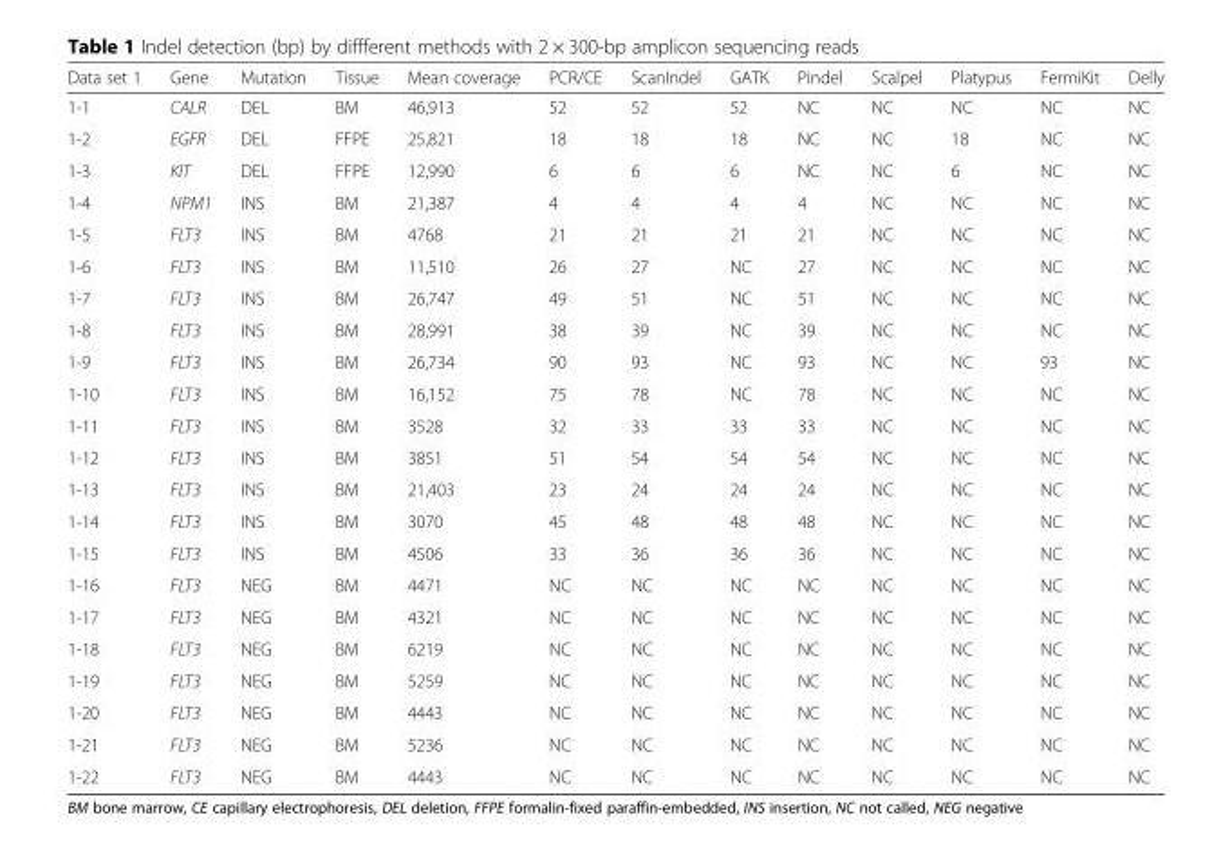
<table><thead><tr><td>Data set 1</td><td>Gene</td><td>Mutation</td><td>Tissue</td><td>Mean coverage</td><td>PCR/CE</td><td>ScanIndel</td><td>GATK</td><td>Pindel</td><td>Scalpel</td><td>Platypus</td><td>FermiKit</td><td>Delly</td></tr></thead><tbody><tr><td>1-1</td><td>CALR</td><td>DEL</td><td>BM</td><td>46,913</td><td>52</td><td>52</td><td>52</td><td>NC</td><td>NC</td><td>NC</td><td>NC</td><td>NC</td></tr><tr><td>1-2</td><td>EGFR</td><td>DEL</td><td>FFPE</td><td>25,821</td><td>18</td><td>18</td><td>18</td><td>NC</td><td>NC</td><td>18</td><td>NC</td><td>NC</td></tr><tr><td>1-3</td><td>KIT</td><td>DEL</td><td>FFPE</td><td>12,990</td><td>6</td><td>6</td><td>6</td><td>NC</td><td>NC</td><td>6</td><td>NC</td><td>NC</td></tr><tr><td>1-4</td><td>NPM1</td><td>INS</td><td>BM</td><td>21,387</td><td>4</td><td>4</td><td>4</td><td>4</td><td>NC</td><td>NC</td><td>NC</td><td>NC</td></tr><tr><td>1-5</td><td>FLT3</td><td>INS</td><td>BM</td><td>4768</td><td>21</td><td>21</td><td>21</td><td>21</td><td>NC</td><td>NC</td><td>NC</td><td>NC</td></tr><tr><td>1-6</td><td>FLT3</td><td>INS</td><td>BM</td><td>11,510</td><td>26</td><td>27</td><td>NC</td><td>27</td><td>NC</td><td>NC</td><td>NC</td><td>NC</td></tr><tr><td>1-7</td><td>FLT3</td><td>INS</td><td>BM</td><td>26,747</td><td>49</td><td>51</td><td>NC</td><td>51</td><td>NC</td><td>NC</td><td>NC</td><td>NC</td></tr><tr><td>1-8</td><td>FLT3</td><td>INS</td><td>BM</td><td>28,991</td><td>38</td><td>39</td><td>NC</td><td>39</td><td>NC</td><td>NC</td><td>NC</td><td>NC</td></tr><tr><td>1-9</td><td>FLT3</td><td>INS</td><td>BM</td><td>26,734</td><td>90</td><td>93</td><td>NC</td><td>93</td><td>NC</td><td>NC</td><td>93</td><td>NC</td></tr><tr><td>1-10</td><td>FLT3</td><td>INS</td><td>BM</td><td>16,152</td><td>75</td><td>78</td><td>NC</td><td>78</td><td>NC</td><td>NC</td><td>NC</td><td>NC</td></tr><tr><td>1-11</td><td>FLT3</td><td>INS</td><td>BM</td><td>3528</td><td>32</td><td>33</td><td>33</td><td>33</td><td>NC</td><td>NC</td><td>NC</td><td>NC</td></tr><tr><td>1-12</td><td>FLT3</td><td>INS</td><td>BM</td><td>3851</td><td>51</td><td>54</td><td>54</td><td>54</td><td>NC</td><td>NC</td><td>NC</td><td>NC</td></tr><tr><td>1-13</td><td>FLT3</td><td>INS</td><td>BM</td><td>21,403</td><td>23</td><td>24</td><td>24</td><td>24</td><td>NC</td><td>NC</td><td>NC</td><td>NC</td></tr><tr><td>1-14</td><td>FLT3</td><td>INS</td><td>BM</td><td>3070</td><td>45</td><td>48</td><td>48</td><td>48</td><td>NC</td><td>NC</td><td>NC</td><td>NC</td></tr><tr><td>1-15</td><td>FLT3</td><td>INS</td><td>BM</td><td>4506</td><td>33</td><td>36</td><td>36</td><td>36</td><td>NC</td><td>NC</td><td>NC</td><td>NC</td></tr><tr><td>1-16</td><td>FLT3</td><td>NEG</td><td>BM</td><td>4471</td><td>NC</td><td>NC</td><td>NC</td><td>NC</td><td>NC</td><td>NC</td><td>NC</td><td>NC</td></tr><tr><td>1-17</td><td>FLT3</td><td>NEG</td><td>BM</td><td>4321</td><td>NC</td><td>NC</td><td>NC</td><td>NC</td><td>NC</td><td>NC</td><td>NC</td><td>NC</td></tr><tr><td>1-18</td><td>FLT3</td><td>NEG</td><td>BM</td><td>6219</td><td>NC</td><td>NC</td><td>NC</td><td>NC</td><td>NC</td><td>NC</td><td>NC</td><td>NC</td></tr><tr><td>1-19</td><td>FLT3</td><td>NEG</td><td>BM</td><td>5259</td><td>NC</td><td>NC</td><td>NC</td><td>NC</td><td>NC</td><td>NC</td><td>NC</td><td>NC</td></tr><tr><td>1-20</td><td>FLT3</td><td>NEG</td><td>BM</td><td>4443</td><td>NC</td><td>NC</td><td>NC</td><td>NC</td><td>NC</td><td>NC</td><td>NC</td><td>NC</td></tr><tr><td>1-21</td><td>FLT3</td><td>NEG</td><td>BM</td><td>5236</td><td>NC</td><td>NC</td><td>NC</td><td>NC</td><td>NC</td><td>NC</td><td>NC</td><td>NC</td></tr><tr><td>1-22</td><td>FLT3</td><td>NEG</td><td>BM</td><td>4443</td><td>NC</td><td>NC</td><td>NC</td><td>NC</td><td>NC</td><td>NC</td><td>NC</td><td>NC</td></tr></tbody></table>